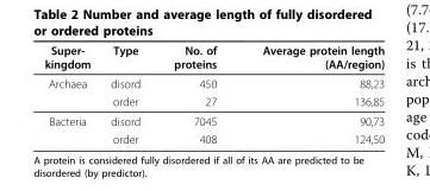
<table><thead><tr><td>Super- kingdom</td><td>Type</td><td>No. of proteins</td><td>Average protein length (AA/region)</td></tr></thead><tbody><tr><td rowspan="2">Archaea</td><td>disord</td><td>450</td><td>88,23</td></tr><tr><td>order</td><td>27</td><td>136,85</td></tr><tr><td rowspan="2">Bacteria</td><td>disord</td><td>7045</td><td>90,73</td></tr><tr><td>order</td><td>408</td><td>124,50</td></tr></tbody></table>